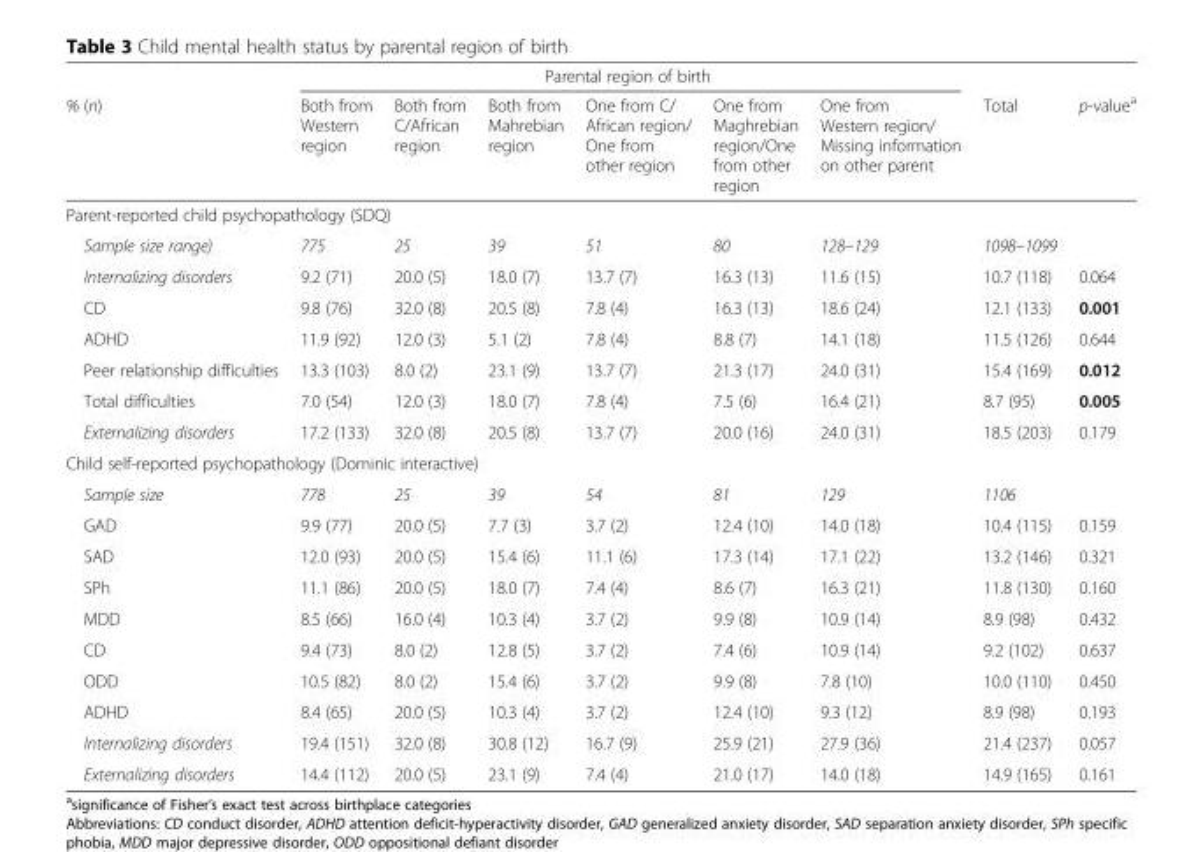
<table><thead><tr><td rowspan="2">% (n)</td><td colspan="6">Parental region of birth</td><td rowspan="2">Total</td><td rowspan="2">p-value<sup>a</sup></td></tr><tr><td>Both from Western region</td><td>Both from C/African region</td><td>Both from Mahrebian region</td><td>One from C/ African region/ One from other region</td><td>One from Maghrebian region/One from other region</td><td>One from Western region/ Missing information on other parent</td></tr></thead><tbody><tr><td colspan="9">Parent-reported child psychopathology (SDQ)</td></tr><tr><td>Sample size range)</td><td>775</td><td>25</td><td>39</td><td>51</td><td>80</td><td>128–129</td><td>1098–1099</td><td></td></tr><tr><td>Internalizing disorders</td><td>9.2 (71)</td><td>20.0 (5)</td><td>18.0 (7)</td><td>13.7 (7)</td><td>16.3 (13)</td><td>11.6 (15)</td><td>10.7 (118)</td><td>0.064</td></tr><tr><td>CD</td><td>9.8 (76)</td><td>32.0 (8)</td><td>20.5 (8)</td><td>7.8 (4)</td><td>16.3 (13)</td><td>18.6 (24)</td><td>12.1 (133)</td><td>0.001</td></tr><tr><td>ADHD</td><td>11.9 (92)</td><td>12.0 (3)</td><td>5.1 (2)</td><td>7.8 (4)</td><td>8.8 (7)</td><td>14.1 (18)</td><td>11.5 (126)</td><td>0.644</td></tr><tr><td>Peer relationship difficulties</td><td>13.3 (103)</td><td>8.0 (2)</td><td>23.1 (9)</td><td>13.7 (7)</td><td>21.3 (17)</td><td>24.0 (31)</td><td>15.4 (169)</td><td>0.012</td></tr><tr><td>Total difficulties</td><td>7.0 (54)</td><td>12.0 (3)</td><td>18.0 (7)</td><td>7.8 (4)</td><td>7.5 (6)</td><td>16.4 (21)</td><td>8.7 (95)</td><td>0.005</td></tr><tr><td>Externalizing disorders</td><td>17.2 (133)</td><td>32.0 (8)</td><td>20.5 (8)</td><td>13.7 (7)</td><td>20.0 (16)</td><td>24.0 (31)</td><td>18.5 (203)</td><td>0.179</td></tr><tr><td colspan="9">Child self-reported psychopathology (Dominic interactive)</td></tr><tr><td>Sample size</td><td>778</td><td>25</td><td>39</td><td>54</td><td>81</td><td>129</td><td>1106</td><td></td></tr><tr><td>GAD</td><td>9.9 (77)</td><td>20.0 (5)</td><td>7.7 (3)</td><td>3.7 (2)</td><td>12.4 (10)</td><td>14.0 (18)</td><td>10.4 (115)</td><td>0.159</td></tr><tr><td>SAD</td><td>12.0 (93)</td><td>20.0 (5)</td><td>15.4 (6)</td><td>11.1 (6)</td><td>17.3 (14)</td><td>17.1 (22)</td><td>13.2 (146)</td><td>0.321</td></tr><tr><td>SPh</td><td>11.1 (86)</td><td>20.0 (5)</td><td>18.0 (7)</td><td>7.4 (4)</td><td>8.6 (7)</td><td>16.3 (21)</td><td>11.8 (130)</td><td>0.160</td></tr><tr><td>MDD</td><td>8.5 (66)</td><td>16.0 (4)</td><td>10.3 (4)</td><td>3.7 (2)</td><td>9.9 (8)</td><td>10.9 (14)</td><td>8.9 (98)</td><td>0.432</td></tr><tr><td>CD</td><td>9.4 (73)</td><td>8.0 (2)</td><td>12.8 (5)</td><td>3.7 (2)</td><td>7.4 (6)</td><td>10.9 (14)</td><td>9.2 (102)</td><td>0.637</td></tr><tr><td>ODD</td><td>10.5 (82)</td><td>8.0 (2)</td><td>15.4 (6)</td><td>3.7 (2)</td><td>9.9 (8)</td><td>7.8 (10)</td><td>10.0 (110)</td><td>0.450</td></tr><tr><td>ADHD</td><td>8.4 (65)</td><td>20.0 (5)</td><td>10.3 (4)</td><td>3.7 (2)</td><td>12.4 (10)</td><td>9.3 (12)</td><td>8.9 (98)</td><td>0.193</td></tr><tr><td>Internalizing disorders</td><td>19.4 (151)</td><td>32.0 (8)</td><td>30.8 (12)</td><td>16.7 (9)</td><td>25.9 (21)</td><td>27.9 (36)</td><td>21.4 (237)</td><td>0.057</td></tr><tr><td>Externalizing disorders</td><td>14.4 (112)</td><td>20.0 (5)</td><td>23.1 (9)</td><td>7.4 (4)</td><td>21.0 (17)</td><td>14.0 (18)</td><td>14.9 (165)</td><td>0.161</td></tr></tbody></table>